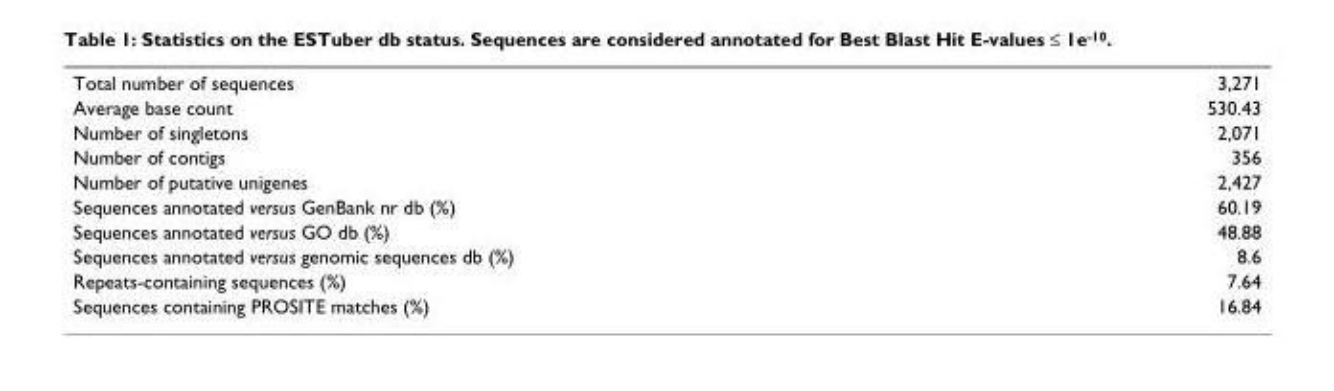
<table><tbody><tr><td>Total number of sequences</td><td>3,271</td></tr><tr><td>Average base count</td><td>530.43</td></tr><tr><td>Number of singletons</td><td>2,071</td></tr><tr><td>Number of contigs</td><td>356</td></tr><tr><td>Number of putative unigenes</td><td>2,427</td></tr><tr><td>Sequences annotated versus GenBank nr db (%)</td><td>60.19</td></tr><tr><td>Sequences annotated versus GO db (%)</td><td>48.88</td></tr><tr><td>Sequences annotated versus genomic sequences db (%)</td><td>8.6</td></tr><tr><td>Repeats-containing sequences (%)</td><td>7.64</td></tr><tr><td>Sequences containing PROSITE matches (%)</td><td>16.84</td></tr></tbody></table>